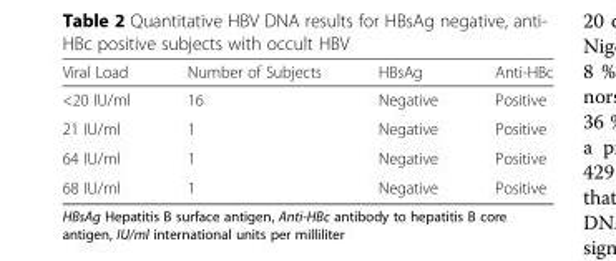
<table><thead><tr><td>Viral Load</td><td>Number of Subjects</td><td>HBsAg</td><td>Anti-HBc</td></tr></thead><tbody><tr><td>&lt;20 IU/ml</td><td>16</td><td>Negative</td><td>Positive</td></tr><tr><td>21 IU/ml</td><td>1</td><td>Negative</td><td>Positive</td></tr><tr><td>64 IU/ml</td><td>1</td><td>Negative</td><td>Positive</td></tr><tr><td>68 IU/ml</td><td>1</td><td>Negative</td><td>Positive</td></tr></tbody></table>